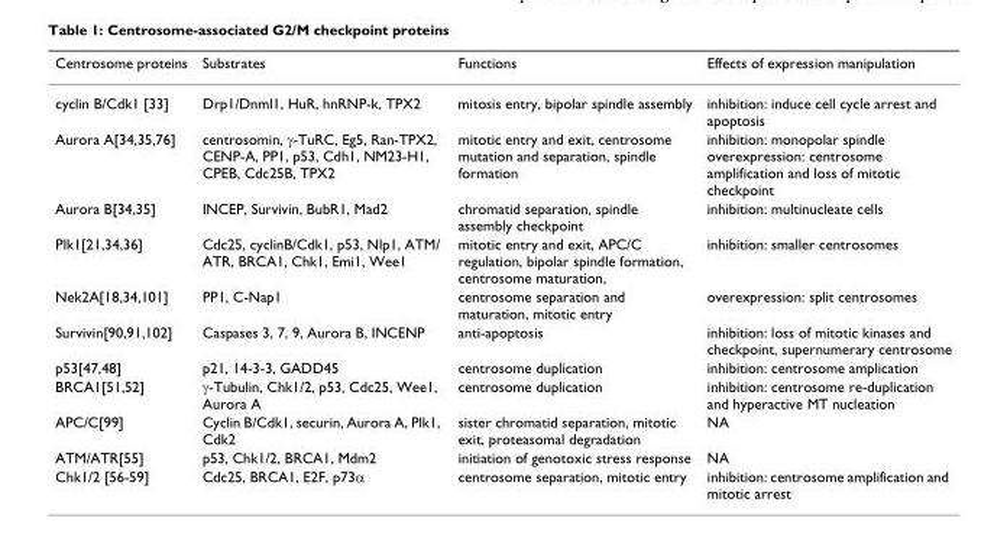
<table><thead><tr><td>Centrosome proteins</td><td>Substrates</td><td>Functions</td><td>Effects of expression manipulation</td></tr></thead><tbody><tr><td>cyclin B/Cdk1 [33]</td><td>Drp1/Dnml1, HuR, hnRNP-k, TPX2</td><td>mitosis entry, bipolar spindle assembly</td><td>inhibition: induce cell cycle arrest and apoptosis</td></tr><tr><td>Aurora A[34,35,76]</td><td>centrosomin, γ-TuRC, Eg5, Ran-TPX2, CENP-A, PP1, p53, Cdh1, NM23-H1, CPEB, Cdc25B, TPX2</td><td>mitotic entry and exit, centrosome mutation and separation, spindle formation</td><td>inhibition: monopolar spindle overexpression: centrosome amplification and loss of mitotic checkpoint</td></tr><tr><td>Aurora B[34,35]</td><td>INCEP, Survivin, BubR1, Mad2</td><td>chromatid separation, spindle assembly checkpoint</td><td>inhibition: multinucleate cells</td></tr><tr><td>Plk1[21,34,36]</td><td>Cdc25, cyclinB/Cdk1, p53, Nlp1, ATM/ ATR, BRCA1, Chk1, Emi1, Wee1</td><td>mitotic entry and exit, APC/C regulation, bipolar spindle formation, centrosome maturation,</td><td>inhibition: smaller centrosomes</td></tr><tr><td>Nek2A[18,34,101]</td><td>PP1, C-Nap1</td><td>centrosome separation and maturation, mitotic entry</td><td>overexpression: split centrosomes</td></tr><tr><td>Survivin[90,91,102]</td><td>Caspases 3, 7, 9, Aurora B, INCENP</td><td>anti-apoptosis</td><td>inhibition: loss of mitotic kinases and checkpoint, supernumerary centrosome</td></tr><tr><td>p53[47,48]</td><td>p21, 14-3-3, GADD45</td><td>centrosome duplication</td><td>inhibition: centrosome amplication</td></tr><tr><td>BRCA1[51,52]</td><td>γ-Tubulin, Chk1/2, p53, Cdc25, Wee1, Aurora A</td><td>centrosome duplication</td><td>inhibition: centrosome re-duplication and hyperactive MT nucleation</td></tr><tr><td>APC/C[99]</td><td>Cyclin B/Cdk1, securin, Aurora A, Plk1, Cdk2</td><td>sister chromatid separation, mitotic exit, proteasomal degradation</td><td>NA</td></tr><tr><td>ATM/ATR[55]</td><td>p53, Chk1/2, BRCA1, Mdm2</td><td>initiation of genotoxic stress response</td><td>NA</td></tr><tr><td>Chk1/2 [56-59]</td><td>Cdc25, BRCA1, E2F, p73α</td><td>centrosome separation, mitotic entry</td><td>inhibition: centrosome amplification and mitotic arrest</td></tr></tbody></table>